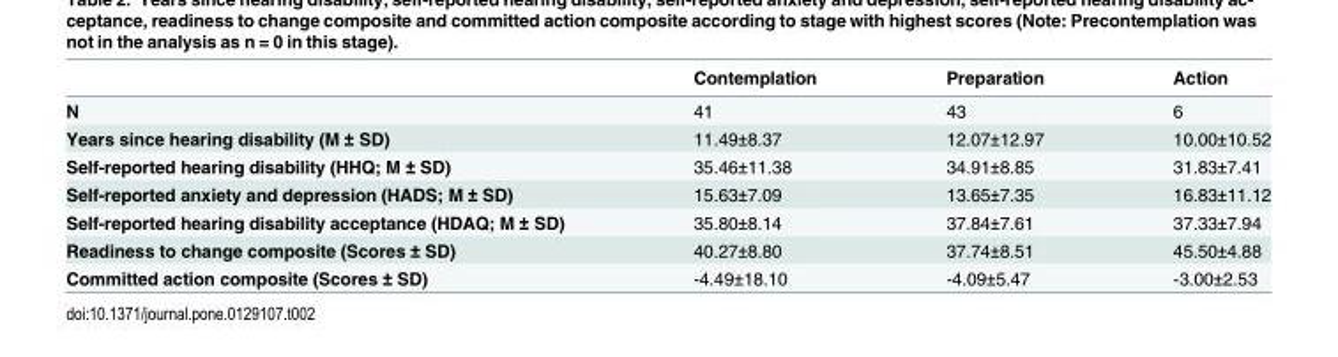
<table><thead><tr><td></td><td>Contemplation</td><td>Preparation</td><td>Action</td></tr></thead><tbody><tr><td>N</td><td>41</td><td>43</td><td>6</td></tr><tr><td>Years since hearing disability (M ± SD)</td><td>11.49±8.37</td><td>12.07±12.97</td><td>10.00±10.52</td></tr><tr><td>Self-reported hearing disability (HHQ; M ± SD)</td><td>35.46±11.38</td><td>34.91±8.85</td><td>31.83±7.41</td></tr><tr><td>Self-reported anxiety and depression (HADS; M ± SD)</td><td>15.63±7.09</td><td>13.65±7.35</td><td>16.83±11.12</td></tr><tr><td>Self-reported hearing disability acceptance (HDAQ; M ± SD)</td><td>35.80±8.14</td><td>37.84±7.61</td><td>37.33±7.94</td></tr><tr><td>Readiness to change composite (Scores ± SD)</td><td>40.27±8.80</td><td>37.74±8.51</td><td>45.50±4.88</td></tr><tr><td>Committed action composite (Scores ± SD)</td><td>-4.49±18.10</td><td>-4.09±5.47</td><td>-3.00±2.53</td></tr></tbody></table>